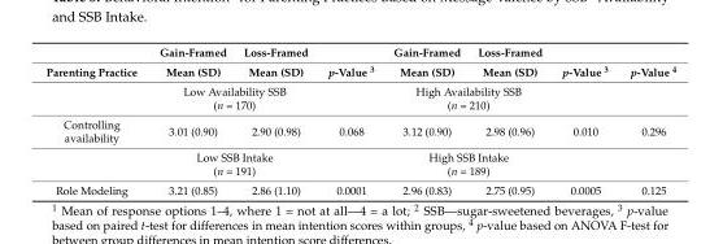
<table><thead><tr><td rowspan="2">Parenting Practice</td><td rowspan="2">Gain-Framed Mean (SD)</td><td rowspan="2">Loss-Framed Mean (SD)</td><td rowspan="2">p-Value <sup>3</sup></td><td rowspan="2">Gain-Framed Mean (SD)</td><td rowspan="2">Loss-Framed Mean (SD)</td><td rowspan="2">p-Value <sup>3</sup></td><td rowspan="2">p-Value <sup>4</sup></td></tr><tr></tr></thead><tbody><tr><td></td><td colspan="2">Low Availability SSB (n = 170)</td><td></td><td colspan="2">High Availability SSB (n = 210)</td><td></td><td></td></tr><tr><td rowspan="2">Controlling availability</td><td>3.01 (0.90)</td><td>2.90 (0.98)</td><td>0.068</td><td>3.12 (0.90)</td><td>2.98 (0.96)</td><td>0.010</td><td>0.296</td></tr><tr><td colspan="2">Low SSB Intake (n = 191)</td><td></td><td colspan="2">High SSB Intake (n = 189)</td><td></td><td></td></tr><tr><td>Role Modeling</td><td>3.21 (0.85)</td><td>2.86 (1.10)</td><td>0.0001</td><td>2.96 (0.83)</td><td>2.75 (0.95)</td><td>0.0005</td><td>0.125</td></tr></tbody></table>